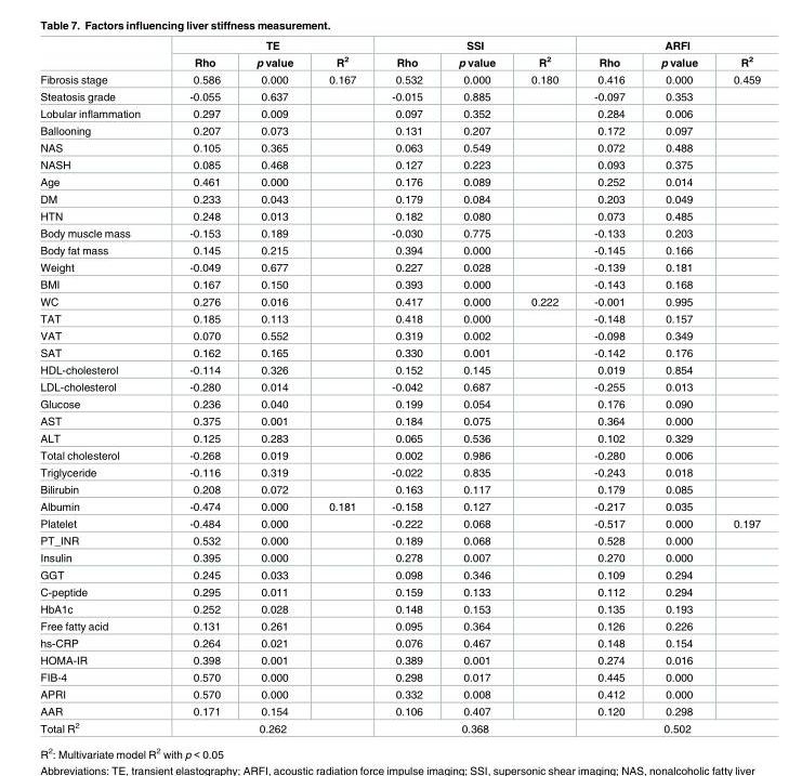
<table><thead><tr><td rowspan="2"></td><td colspan="3">TE</td><td colspan="3">SSI</td><td colspan="3">ARFI</td></tr><tr><td>Rho</td><td>p value</td><td>R<sup>2</sup></td><td>Rho</td><td>p value</td><td>R<sup>2</sup></td><td>Rho</td><td>p value</td><td>R<sup>2</sup></td></tr></thead><tbody><tr><td>Fibrosis stage</td><td>0.586</td><td>0.000</td><td>0.167</td><td>0.532</td><td>0.000</td><td>0.180</td><td>0.416</td><td>0.000</td><td>0.459</td></tr><tr><td>Steatosis grade</td><td>-0.055</td><td>0.637</td><td></td><td>-0.015</td><td>0.885</td><td></td><td>-0.097</td><td>0.353</td><td></td></tr><tr><td>Lobular inflammation</td><td>0.297</td><td>0.009</td><td></td><td>0.097</td><td>0.352</td><td></td><td>0.284</td><td>0.006</td><td></td></tr><tr><td>Ballooning</td><td>0.207</td><td>0.073</td><td></td><td>0.131</td><td>0.207</td><td></td><td>0.172</td><td>0.097</td><td></td></tr><tr><td>NAS</td><td>0.105</td><td>0.365</td><td></td><td>0.063</td><td>0.549</td><td></td><td>0.072</td><td>0.488</td><td></td></tr><tr><td>NASH</td><td>0.085</td><td>0.468</td><td></td><td>0.127</td><td>0.223</td><td></td><td>0.093</td><td>0.375</td><td></td></tr><tr><td>Age</td><td>0.461</td><td>0.000</td><td></td><td>0.176</td><td>0.089</td><td></td><td>0.252</td><td>0.014</td><td></td></tr><tr><td>DM</td><td>0.233</td><td>0.043</td><td></td><td>0.179</td><td>0.084</td><td></td><td>0.203</td><td>0.049</td><td></td></tr><tr><td>HTN</td><td>0.248</td><td>0.013</td><td></td><td>0.182</td><td>0.080</td><td></td><td>0.073</td><td>0.485</td><td></td></tr><tr><td>Body muscle mass</td><td>-0.153</td><td>0.189</td><td></td><td>-0.030</td><td>0.775</td><td></td><td>-0.133</td><td>0.203</td><td></td></tr><tr><td>Body fat mass</td><td>0.145</td><td>0.215</td><td></td><td>0.394</td><td>0.000</td><td></td><td>-0.145</td><td>0.166</td><td></td></tr><tr><td>Weight</td><td>-0.049</td><td>0.677</td><td></td><td>0.227</td><td>0.028</td><td></td><td>-0.139</td><td>0.181</td><td></td></tr><tr><td>BMI</td><td>0.167</td><td>0.150</td><td></td><td>0.393</td><td>0.000</td><td></td><td>-0.143</td><td>0.168</td><td></td></tr><tr><td>WC</td><td>0.276</td><td>0.016</td><td></td><td>0.417</td><td>0.000</td><td>0.222</td><td>-0.001</td><td>0.995</td><td></td></tr><tr><td>TAT</td><td>0.185</td><td>0.113</td><td></td><td>0.418</td><td>0.000</td><td></td><td>-0.148</td><td>0.157</td><td></td></tr><tr><td>VAT</td><td>0.070</td><td>0.552</td><td></td><td>0.319</td><td>0.002</td><td></td><td>-0.098</td><td>0.349</td><td></td></tr><tr><td>SAT</td><td>0.162</td><td>0.165</td><td></td><td>0.330</td><td>0.001</td><td></td><td>-0.142</td><td>0.176</td><td></td></tr><tr><td>HDL-cholesterol</td><td>-0.114</td><td>0.326</td><td></td><td>0.152</td><td>0.145</td><td></td><td>0.019</td><td>0.854</td><td></td></tr><tr><td>LDL-cholesterol</td><td>-0.280</td><td>0.014</td><td></td><td>-0.042</td><td>0.687</td><td></td><td>-0.255</td><td>0.013</td><td></td></tr><tr><td>Glucose</td><td>0.236</td><td>0.040</td><td></td><td>0.199</td><td>0.054</td><td></td><td>0.176</td><td>0.090</td><td></td></tr><tr><td>AST</td><td>0.375</td><td>0.001</td><td></td><td>0.184</td><td>0.075</td><td></td><td>0.364</td><td>0.000</td><td></td></tr><tr><td>ALT</td><td>0.125</td><td>0.283</td><td></td><td>0.065</td><td>0.536</td><td></td><td>0.102</td><td>0.329</td><td></td></tr><tr><td>Total cholesterol</td><td>-0.268</td><td>0.019</td><td></td><td>0.002</td><td>0.986</td><td></td><td>-0.280</td><td>0.006</td><td></td></tr><tr><td>Triglyceride</td><td>-0.116</td><td>0.319</td><td></td><td>-0.022</td><td>0.835</td><td></td><td>-0.243</td><td>0.018</td><td></td></tr><tr><td>Bilirubin</td><td>0.208</td><td>0.072</td><td></td><td>0.163</td><td>0.117</td><td></td><td>0.179</td><td>0.085</td><td></td></tr><tr><td>Albumin</td><td>-0.474</td><td>0.000</td><td>0.181</td><td>-0.158</td><td>0.127</td><td></td><td>-0.217</td><td>0.035</td><td></td></tr><tr><td>Platelet</td><td>-0.484</td><td>0.000</td><td></td><td>-0.222</td><td>0.068</td><td></td><td>-0.517</td><td>0.000</td><td>0.197</td></tr><tr><td>PT_INR</td><td>0.532</td><td>0.000</td><td></td><td>0.189</td><td>0.068</td><td></td><td>0.528</td><td>0.000</td><td></td></tr><tr><td>Insulin</td><td>0.395</td><td>0.000</td><td></td><td>0.278</td><td>0.007</td><td></td><td>0.270</td><td>0.000</td><td></td></tr><tr><td>GGT</td><td>0.245</td><td>0.033</td><td></td><td>0.098</td><td>0.346</td><td></td><td>0.109</td><td>0.294</td><td></td></tr><tr><td>C-peptide</td><td>0.295</td><td>0.011</td><td></td><td>0.159</td><td>0.133</td><td></td><td>0.112</td><td>0.294</td><td></td></tr><tr><td>HbA1c</td><td>0.252</td><td>0.028</td><td></td><td>0.148</td><td>0.153</td><td></td><td>0.135</td><td>0.193</td><td></td></tr><tr><td>Free fatty acid</td><td>0.131</td><td>0.261</td><td></td><td>0.095</td><td>0.364</td><td></td><td>0.126</td><td>0.226</td><td></td></tr><tr><td>hs-CRP</td><td>0.264</td><td>0.021</td><td></td><td>0.076</td><td>0.467</td><td></td><td>0.148</td><td>0.154</td><td></td></tr><tr><td>HOMA-IR</td><td>0.398</td><td>0.001</td><td></td><td>0.389</td><td>0.001</td><td></td><td>0.274</td><td>0.016</td><td></td></tr><tr><td>FIB-4</td><td>0.570</td><td>0.000</td><td></td><td>0.298</td><td>0.017</td><td></td><td>0.445</td><td>0.000</td><td></td></tr><tr><td>APRI</td><td>0.570</td><td>0.000</td><td></td><td>0.332</td><td>0.008</td><td></td><td>0.412</td><td>0.000</td><td></td></tr><tr><td>AAR</td><td>0.171</td><td>0.154</td><td></td><td>0.106</td><td>0.407</td><td></td><td>0.120</td><td>0.298</td><td></td></tr><tr><td>Total R<sup>2</sup></td><td colspan="3">0.262</td><td colspan="3">0.368</td><td colspan="3">0.502</td></tr></tbody></table>